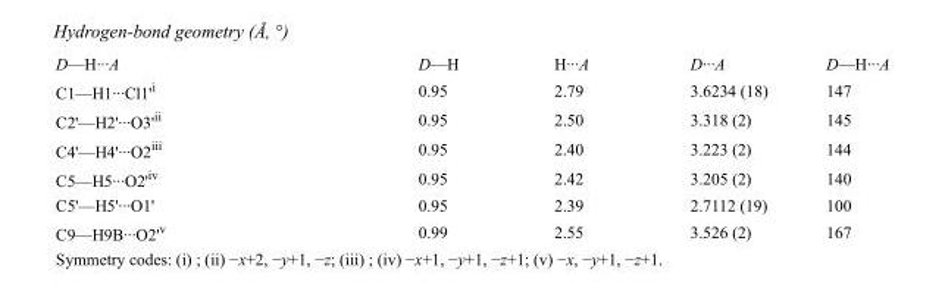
<table><tbody><tr><td>D—H···A</td><td>D—H</td><td>H···A</td><td>D···A</td><td>D—H···A</td></tr><tr><td>C1—H1···Cl1&#x27;<sup>i</sup></td><td>0.95</td><td>2.79</td><td>3.6234 (18)</td><td>147</td></tr><tr><td>C2&#x27;—H2&#x27;···O3&#x27;<sup>ii</sup></td><td>0.95</td><td>2.50</td><td>3.318 (2)</td><td>145</td></tr><tr><td>C4&#x27;—H4&#x27;···O2<sup>iii</sup></td><td>0.95</td><td>2.40</td><td>3.223 (2)</td><td>144</td></tr><tr><td>C5—H5···O2&#x27;<sup>iv</sup></td><td>0.95</td><td>2.42</td><td>3.205 (2)</td><td>140</td></tr><tr><td>C5&#x27;—H5&#x27;···O1&#x27;</td><td>0.95</td><td>2.39</td><td>2.7112 (19)</td><td>100</td></tr><tr><td>C9—H9B···O2&#x27;<sup>v</sup></td><td>0.99</td><td>2.55</td><td>3.526 (2)</td><td>167</td></tr></tbody></table>